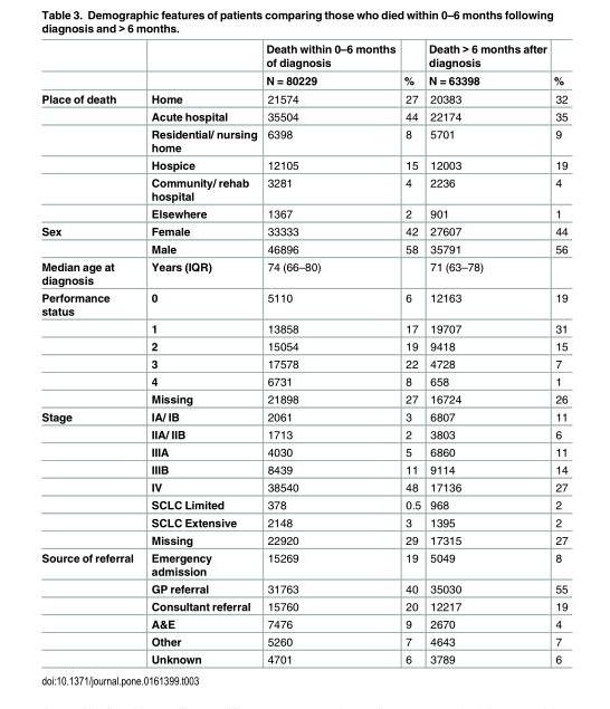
<table><thead><tr><td rowspan="2"></td><td rowspan="2"></td><td rowspan="2">Death within 0–6 months of diagnosis N = 80229</td><td rowspan="2">%</td><td rowspan="2">Death &gt; 6 months after diagnosis N = 63398</td><td rowspan="2">%</td></tr><tr></tr></thead><tbody><tr><td rowspan="6">Place of death</td><td>Home</td><td>21574</td><td>27</td><td>20383</td><td>32</td></tr><tr><td>Acute hospital</td><td>35504</td><td>44</td><td>22174</td><td>35</td></tr><tr><td>Residential/ nursing home</td><td>6398</td><td>8</td><td>5701</td><td>9</td></tr><tr><td>Hospice</td><td>12105</td><td>15</td><td>12003</td><td>19</td></tr><tr><td>Community/ rehab hospital</td><td>3281</td><td>4</td><td>2236</td><td>4</td></tr><tr><td>Elsewhere</td><td>1367</td><td>2</td><td>901</td><td>1</td></tr><tr><td rowspan="2">Sex</td><td>Female</td><td>33333</td><td>42</td><td>27607</td><td>44</td></tr><tr><td>Male</td><td>46896</td><td>58</td><td>35791</td><td>56</td></tr><tr><td>Median age at diagnosis</td><td>Years (IQR)</td><td>74 (66–80)</td><td></td><td>71 (63–78)</td><td></td></tr><tr><td rowspan="6">Performance status</td><td>0</td><td>5110</td><td>6</td><td>12163</td><td>19</td></tr><tr><td>1</td><td>13858</td><td>17</td><td>19707</td><td>31</td></tr><tr><td>2</td><td>15054</td><td>19</td><td>9418</td><td>15</td></tr><tr><td>3</td><td>17578</td><td>22</td><td>4728</td><td>7</td></tr><tr><td>4</td><td>6731</td><td>8</td><td>658</td><td>1</td></tr><tr><td>Missing</td><td>21898</td><td>27</td><td>16724</td><td>26</td></tr><tr><td rowspan="8">Stage</td><td>IA/ IB</td><td>2061</td><td>3</td><td>6807</td><td>11</td></tr><tr><td>IIA/ IIB</td><td>1713</td><td>2</td><td>3803</td><td>6</td></tr><tr><td>IIIA</td><td>4030</td><td>5</td><td>6860</td><td>11</td></tr><tr><td>IIIB</td><td>8439</td><td>11</td><td>9114</td><td>14</td></tr><tr><td>IV</td><td>38540</td><td>48</td><td>17136</td><td>27</td></tr><tr><td>SCLC Limited</td><td>378</td><td>0.5</td><td>968</td><td>2</td></tr><tr><td>SCLC Extensive</td><td>2148</td><td>3</td><td>1395</td><td>2</td></tr><tr><td>Missing</td><td>22920</td><td>29</td><td>17315</td><td>27</td></tr><tr><td rowspan="6">Source of referral</td><td>Emergency admission</td><td>15269</td><td>19</td><td>5049</td><td>8</td></tr><tr><td>GP referral</td><td>31763</td><td>40</td><td>35030</td><td>55</td></tr><tr><td>Consultant referral</td><td>15760</td><td>20</td><td>12217</td><td>19</td></tr><tr><td>A&amp;E</td><td>7476</td><td>9</td><td>2670</td><td>4</td></tr><tr><td>Other</td><td>5260</td><td>7</td><td>4643</td><td>7</td></tr><tr><td>Unknown</td><td>4701</td><td>6</td><td>3789</td><td>6</td></tr></tbody></table>